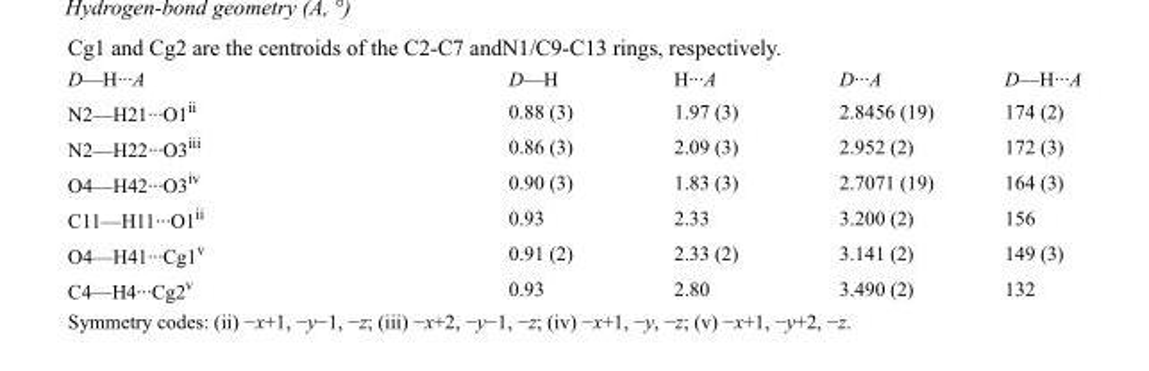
<table><tbody><tr><td>D—H···A</td><td>D—H</td><td>H···A</td><td>D···A</td><td>D—H···A</td></tr><tr><td>N2—H21···O1<sup>ii</sup></td><td>0.88 (3)</td><td>1.97 (3)</td><td>2.8456 (19)</td><td>174 (2)</td></tr><tr><td>N2—H22···O3<sup>iii</sup></td><td>0.86 (3)</td><td>2.09 (3)</td><td>2.952 (2)</td><td>172 (3)</td></tr><tr><td>O4—H42···O3<sup>iv</sup></td><td>0.90 (3)</td><td>1.83 (3)</td><td>2.7071 (19)</td><td>164 (3)</td></tr><tr><td>C11—H11···O1<sup>ii</sup></td><td>0.93</td><td>2.33</td><td>3.200 (2)</td><td>156</td></tr><tr><td>O4—H41···Cg1<sup>v</sup></td><td>0.91 (2)</td><td>2.33 (2)</td><td>3.141 (2)</td><td>149 (3)</td></tr><tr><td>C4—H4···Cg2<sup>v</sup></td><td>0.93</td><td>2.80</td><td>3.490 (2)</td><td>132</td></tr></tbody></table>